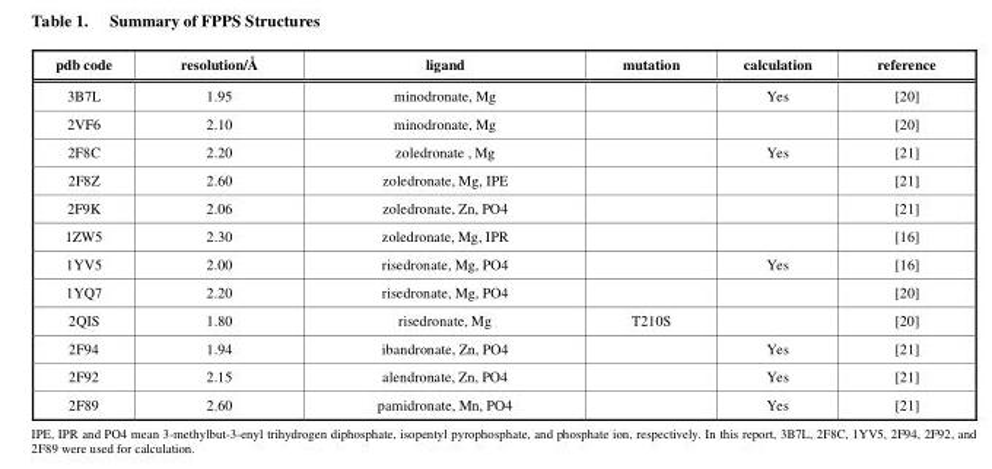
<table><thead><tr><td>pdb code</td><td>resolution/Å</td><td>ligand</td><td>mutation</td><td>calculation</td><td>reference</td></tr></thead><tbody><tr><td>3B7L</td><td>1.95</td><td>minodronate, Mg</td><td></td><td>Yes</td><td>[20]</td></tr><tr><td>2VF6</td><td>2.10</td><td>minodronate, Mg</td><td></td><td></td><td>[20]</td></tr><tr><td>2F8C</td><td>2.20</td><td>zoledronate , Mg</td><td></td><td>Yes</td><td>[21]</td></tr><tr><td>2F8Z</td><td>2.60</td><td>zoledronate, Mg, IPE</td><td></td><td></td><td>[21]</td></tr><tr><td>2F9K</td><td>2.06</td><td>zoledronate, Zn, PO4</td><td></td><td></td><td>[21]</td></tr><tr><td>1ZW5</td><td>2.30</td><td>zoledronate, Mg, IPR</td><td></td><td></td><td>[16]</td></tr><tr><td>1YV5</td><td>2.00</td><td>risedronate, Mg, PO4</td><td></td><td>Yes</td><td>[16]</td></tr><tr><td>1YQ7</td><td>2.20</td><td>risedronate, Mg, PO4</td><td></td><td></td><td>[20]</td></tr><tr><td>2QIS</td><td>1.80</td><td>risedronate, Mg</td><td>T210S</td><td></td><td>[20]</td></tr><tr><td>2F94</td><td>1.94</td><td>ibandronate, Zn, PO4</td><td></td><td>Yes</td><td>[21]</td></tr><tr><td>2F92</td><td>2.15</td><td>alendronate, Zn, PO4</td><td></td><td>Yes</td><td>[21]</td></tr><tr><td>2F89</td><td>2.60</td><td>pamidronate, Mn, PO4</td><td></td><td>Yes</td><td>[21]</td></tr></tbody></table>